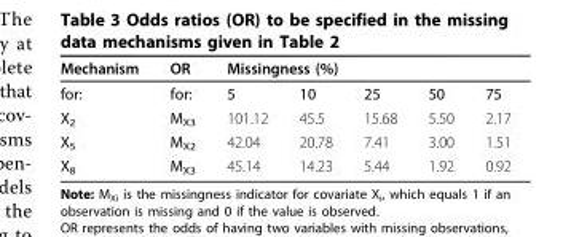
<table><thead><tr><td rowspan="2">Mechanism for:</td><td rowspan="2">OR for:</td><td colspan="5">Missingness (%)</td></tr><tr><td>5</td><td>10</td><td>25</td><td>50</td><td>75</td></tr></thead><tbody><tr><td>X<sub>2</sub></td><td>M<sub>X3</sub></td><td>101.12</td><td>45.5</td><td>15.68</td><td>5.50</td><td>2.17</td></tr><tr><td>X<sub>5</sub></td><td>M<sub>X2</sub></td><td>42.04</td><td>20.78</td><td>7.41</td><td>3.00</td><td>1.51</td></tr><tr><td>X<sub>8</sub></td><td>M<sub>X3</sub></td><td>45.14</td><td>14.23</td><td>5.44</td><td>1.92</td><td>0.92</td></tr></tbody></table>